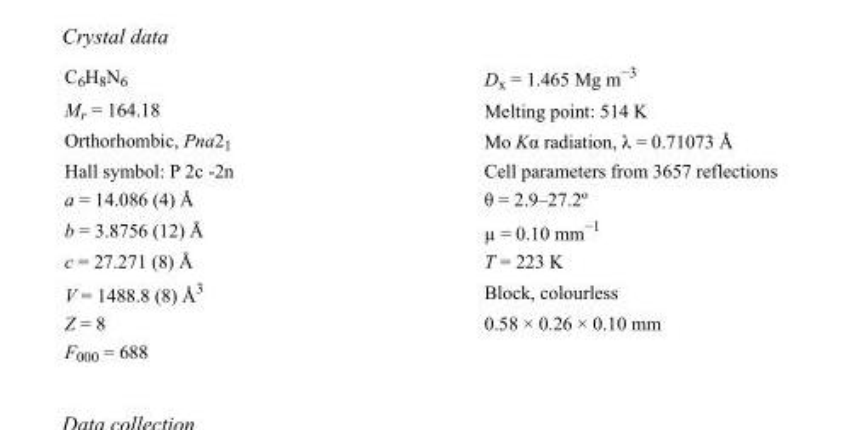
<table><tbody><tr><td>C<sub>6</sub>H<sub>8</sub>N<sub>6</sub></td><td>D<sub>x</sub> = 1.465 Mg m<sup>−3</sup></td></tr><tr><td>M<sub>r</sub> = 164.18</td><td>Melting point: 514 K</td></tr><tr><td>Orthorhombic, Pna2<sub>1</sub></td><td>Mo Kα radiation, λ = 0.71073 Å</td></tr><tr><td>Hall symbol: P 2c -2n</td><td>Cell parameters from 3657 reflections</td></tr><tr><td>a = 14.086 (4) Å</td><td>θ = 2.9–27.2º</td></tr><tr><td>b = 3.8756 (12) Å</td><td>µ = 0.10 mm<sup>−1</sup></td></tr><tr><td>c = 27.271 (8) Å</td><td>T = 223 K</td></tr><tr><td>V = 1488.8 (8) Å<sup>3</sup></td><td>Block, colourless</td></tr><tr><td>Z = 8</td><td>0.58 × 0.26 × 0.10 mm</td></tr><tr><td>F000 = 688</td><td></td></tr></tbody></table>